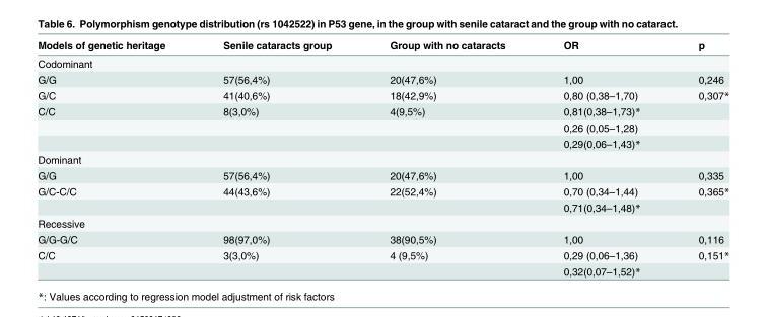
<table><thead><tr><td>Models of genetic heritage</td><td>Senile cataracts group</td><td>Group with no cataracts</td><td>OR</td><td>p</td></tr></thead><tbody><tr><td colspan="5">Codominant</td></tr><tr><td>G/G</td><td>57(56,4%)</td><td>20(47,6%)</td><td>1,00</td><td>0,246</td></tr><tr><td>G/C</td><td>41(40,6%)</td><td>18(42,9%)</td><td>0,80 (0,38–1,70)</td><td>0,307*</td></tr><tr><td rowspan="3">C/C</td><td>8(3,0%)</td><td>4(9,5%)</td><td>0,81(0,38–1,73)*</td><td></td></tr><tr><td></td><td></td><td>0,26 (0,05–1,28)</td><td></td></tr><tr><td></td><td></td><td>0,29(0,06–1,43)*</td><td></td></tr><tr><td colspan="5">Dominant</td></tr><tr><td>G/G</td><td>57(56,4%)</td><td>20(47,6%)</td><td>1,00</td><td>0,335</td></tr><tr><td rowspan="2">G/C-C/C</td><td>44(43,6%)</td><td>22(52,4%)</td><td>0,70 (0,34–1,44)</td><td>0,365*</td></tr><tr><td></td><td></td><td>0,71(0,34–1,48)*</td><td></td></tr><tr><td colspan="5">Recessive</td></tr><tr><td>G/G-G/C</td><td>98(97,0%)</td><td>38(90,5%)</td><td>1,00</td><td>0,116</td></tr><tr><td rowspan="2">C/C</td><td>3(3,0%)</td><td>4 (9,5%)</td><td>0,29 (0,06–1,36)</td><td>0,151*</td></tr><tr><td></td><td></td><td>0,32(0,07–1,52)*</td><td></td></tr></tbody></table>